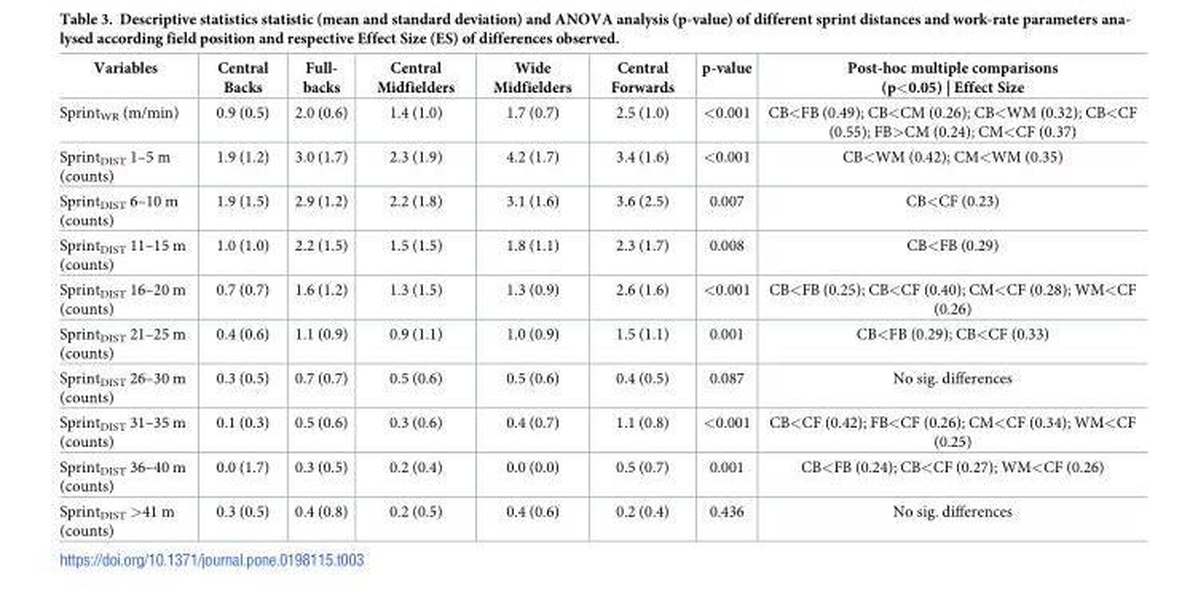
<table><thead><tr><td>Variables</td><td>Central Backs</td><td>Full- backs</td><td>Central Midfielders</td><td>Wide Midfielders</td><td>Central Forwards</td><td>p-value</td><td>Post-hoc multiple comparisons (p&lt;0.05) | Effect Size</td></tr></thead><tbody><tr><td>Sprint<sub>WR</sub> (m/min)</td><td>0.9 (0.5)</td><td>2.0 (0.6)</td><td>1.4 (1.0)</td><td>1.7 (0.7)</td><td>2.5 (1.0)</td><td>&lt;0.001</td><td>CB&lt;FB (0.49); CB&lt;CM (0.26); CB&lt;WM (0.32); CB&lt;CF (0.55); FB&gt;CM (0.24); CM&lt;CF (0.37)</td></tr><tr><td>Sprint<sub>DIST</sub> 1–5 m (counts)</td><td>1.9 (1.2)</td><td>3.0 (1.7)</td><td>2.3 (1.9)</td><td>4.2 (1.7)</td><td>3.4 (1.6)</td><td>&lt;0.001</td><td>CB&lt;WM (0.42); CM&lt;WM (0.35)</td></tr><tr><td>Sprint<sub>DIST</sub> 6–10 m (counts)</td><td>1.9 (1.5)</td><td>2.9 (1.2)</td><td>2.2 (1.8)</td><td>3.1 (1.6)</td><td>3.6 (2.5)</td><td>0.007</td><td>CB&lt;CF (0.23)</td></tr><tr><td>Sprint<sub>DIST</sub> 11–15 m (counts)</td><td>1.0 (1.0)</td><td>2.2 (1.5)</td><td>1.5 (1.5)</td><td>1.8 (1.1)</td><td>2.3 (1.7)</td><td>0.008</td><td>CB&lt;FB (0.29)</td></tr><tr><td>Sprint<sub>DIST</sub> 16–20 m (counts)</td><td>0.7 (0.7)</td><td>1.6 (1.2)</td><td>1.3 (1.5)</td><td>1.3 (0.9)</td><td>2.6 (1.6)</td><td>&lt;0.001</td><td>CB&lt;FB (0.25); CB&lt;CF (0.40); CM&lt;CF (0.28); WM&lt;CF (0.26)</td></tr><tr><td>Sprint<sub>DIST</sub> 21–25 m (counts)</td><td>0.4 (0.6)</td><td>1.1 (0.9)</td><td>0.9 (1.1)</td><td>1.0 (0.9)</td><td>1.5 (1.1)</td><td>0.001</td><td>CB&lt;FB (0.29); CB&lt;CF (0.33)</td></tr><tr><td>Sprint<sub>DIST</sub> 26–30 m (counts)</td><td>0.3 (0.5)</td><td>0.7 (0.7)</td><td>0.5 (0.6)</td><td>0.5 (0.6)</td><td>0.4 (0.5)</td><td>0.087</td><td>No sig. differences</td></tr><tr><td>Sprint<sub>DIST</sub> 31–35 m (counts)</td><td>0.1 (0.3)</td><td>0.5 (0.6)</td><td>0.3 (0.6)</td><td>0.4 (0.7)</td><td>1.1 (0.8)</td><td>&lt;0.001</td><td>CB&lt;CF (0.42); FB&lt;CF (0.26); CM&lt;CF (0.34); WM&lt;CF (0.25)</td></tr><tr><td>Sprint<sub>DIST</sub> 36–40 m (counts)</td><td>0.0 (1.7)</td><td>0.3 (0.5)</td><td>0.2 (0.4)</td><td>0.0 (0.0)</td><td>0.5 (0.7)</td><td>0.001</td><td>CB&lt;FB (0.24); CB&lt;CF (0.27); WM&lt;CF (0.26)</td></tr><tr><td>Sprint<sub>DIST</sub> &gt;41 m (counts)</td><td>0.3 (0.5)</td><td>0.4 (0.8)</td><td>0.2 (0.5)</td><td>0.4 (0.6)</td><td>0.2 (0.4)</td><td>0.436</td><td>No sig. differences</td></tr></tbody></table>